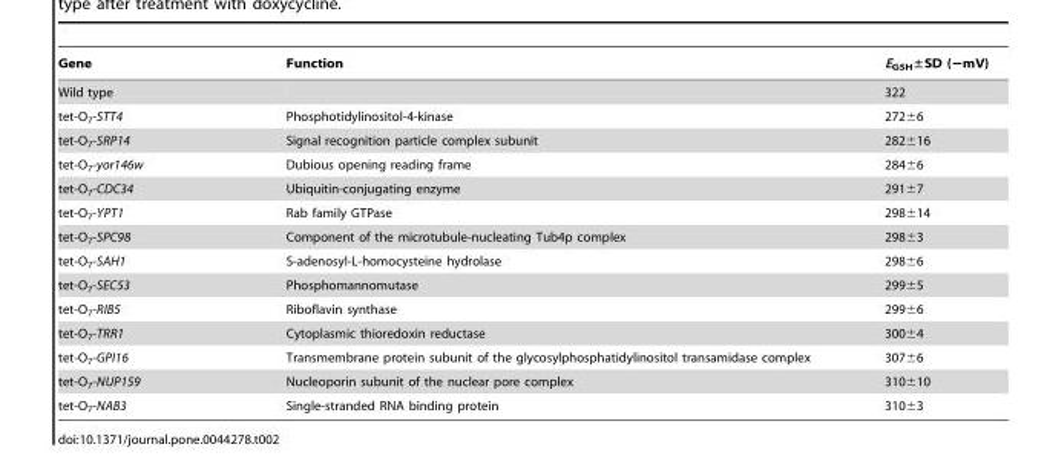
<table><thead><tr><td>Gene</td><td>Function</td><td>E<sub>GSH</sub>±SD (−mV)</td></tr></thead><tbody><tr><td>Wild type</td><td></td><td>322</td></tr><tr><td>tet-O<sub>7</sub>-STT4</td><td>Phosphotidylinositol-4-kinase</td><td>272±6</td></tr><tr><td>tet-O<sub>7</sub>-SRP14</td><td>Signal recognition particle complex subunit</td><td>282±16</td></tr><tr><td>tet-O<sub>7</sub>-yor146w</td><td>Dubious opening reading frame</td><td>284±6</td></tr><tr><td>tet-O<sub>7</sub>-CDC34</td><td>Ubiquitin-conjugating enzyme</td><td>291±7</td></tr><tr><td>tet-O<sub>7</sub>-YPT1</td><td>Rab family GTPase</td><td>298±14</td></tr><tr><td>tet-O<sub>7</sub>-SPC98</td><td>Component of the microtubule-nucleating Tub4p complex</td><td>298±3</td></tr><tr><td>tet-O<sub>7</sub>-SAH1</td><td>S-adenosyl-L-homocysteine hydrolase</td><td>298±6</td></tr><tr><td>tet-O<sub>7</sub>-SEC53</td><td>Phosphomannomutase</td><td>299±5</td></tr><tr><td>tet-O<sub>7</sub>-RIB5</td><td>Riboflavin synthase</td><td>299±6</td></tr><tr><td>tet-O<sub>7</sub>-TRR1</td><td>Cytoplasmic thioredoxin reductase</td><td>300±4</td></tr><tr><td>tet-O<sub>7</sub>-GPI16</td><td>Transmembrane protein subunit of the glycosylphosphatidylinositol transamidase complex</td><td>307±6</td></tr><tr><td>tet-O<sub>7</sub>-NUP159</td><td>Nucleoporin subunit of the nuclear pore complex</td><td>310±10</td></tr><tr><td>tet-O<sub>7</sub>-NAB3</td><td>Single-stranded RNA binding protein</td><td>310±3</td></tr></tbody></table>